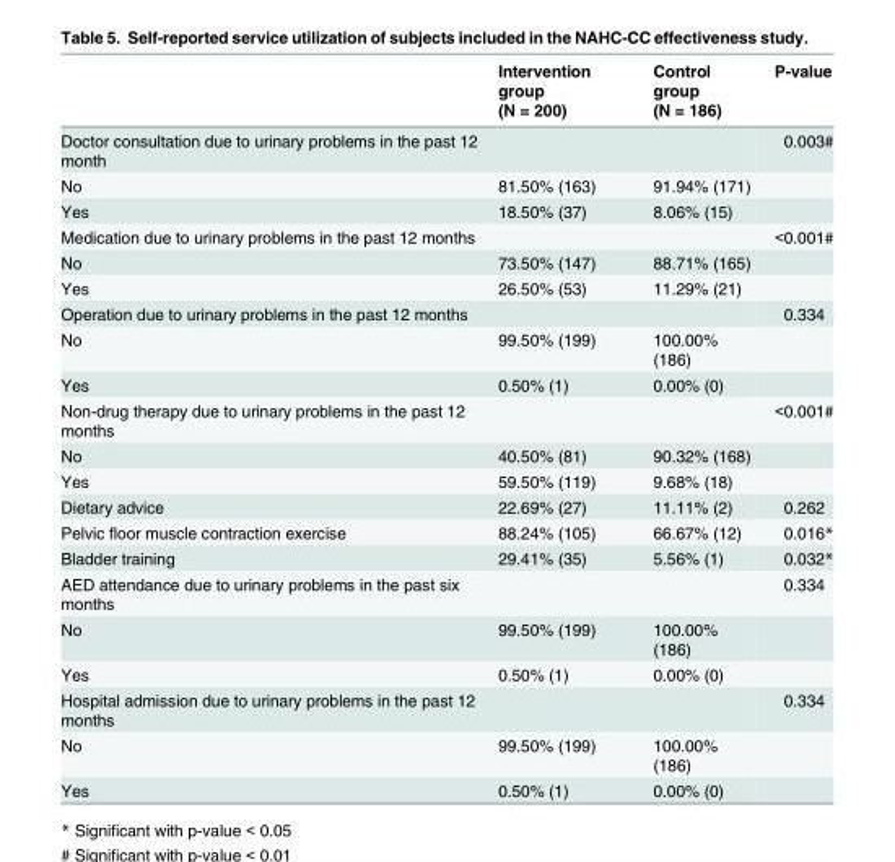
<table><thead><tr><td rowspan="2"></td><td rowspan="2">Intervention group (N = 200)</td><td rowspan="2">Control group (N = 186)</td><td rowspan="2">P-value</td></tr><tr></tr></thead><tbody><tr><td>Doctor consultation due to urinary problems in the past 12 month</td><td></td><td></td><td>0.003#</td></tr><tr><td>No</td><td>81.50% (163)</td><td>91.94% (171)</td><td></td></tr><tr><td>Yes</td><td>18.50% (37)</td><td>8.06% (15)</td><td></td></tr><tr><td>Medication due to urinary problems in the past 12 months</td><td></td><td></td><td>&lt;0.001#</td></tr><tr><td>No</td><td>73.50% (147)</td><td>88.71% (165)</td><td></td></tr><tr><td>Yes</td><td>26.50% (53)</td><td>11.29% (21)</td><td></td></tr><tr><td>Operation due to urinary problems in the past 12 months</td><td></td><td></td><td>0.334</td></tr><tr><td>No</td><td>99.50% (199)</td><td>100.00% (186)</td><td></td></tr><tr><td>Yes</td><td>0.50% (1)</td><td>0.00% (0)</td><td></td></tr><tr><td>Non-drug therapy due to urinary problems in the past 12 months</td><td></td><td></td><td>&lt;0.001#</td></tr><tr><td>No</td><td>40.50% (81)</td><td>90.32% (168)</td><td></td></tr><tr><td>Yes</td><td>59.50% (119)</td><td>9.68% (18)</td><td></td></tr><tr><td>Dietary advice</td><td>22.69% (27)</td><td>11.11% (2)</td><td>0.262</td></tr><tr><td>Pelvic floor muscle contraction exercise</td><td>88.24% (105)</td><td>66.67% (12)</td><td>0.016*</td></tr><tr><td>Bladder training</td><td>29.41% (35)</td><td>5.56% (1)</td><td>0.032*</td></tr><tr><td>AED attendance due to urinary problems in the past six months</td><td></td><td></td><td>0.334</td></tr><tr><td>No</td><td>99.50% (199)</td><td>100.00% (186)</td><td></td></tr><tr><td>Yes</td><td>0.50% (1)</td><td>0.00% (0)</td><td></td></tr><tr><td>Hospital admission due to urinary problems in the past 12 months</td><td></td><td></td><td>0.334</td></tr><tr><td>No</td><td>99.50% (199)</td><td>100.00% (186)</td><td></td></tr><tr><td>Yes</td><td>0.50% (1)</td><td>0.00% (0)</td><td></td></tr></tbody></table>